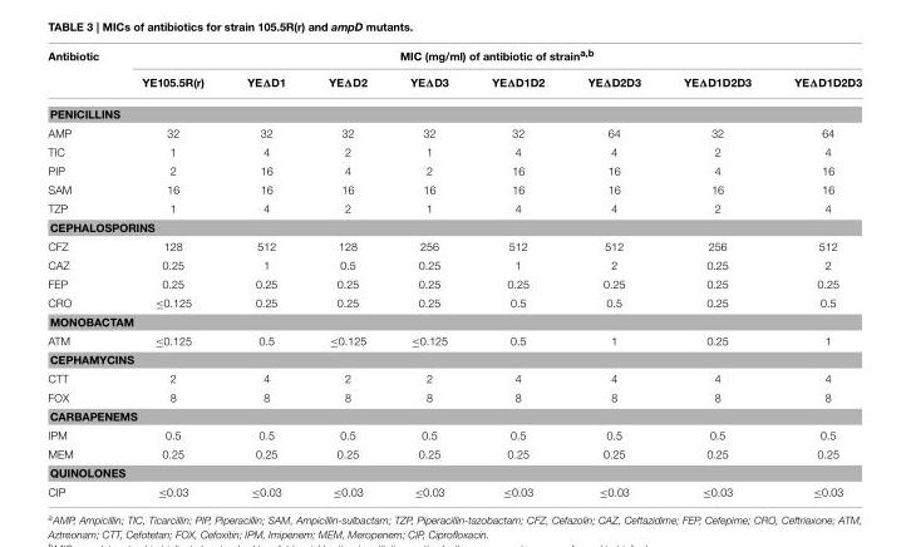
<table><thead><tr><td rowspan="2">Antibiotic</td><td colspan="8">MIC (mg/ml) of antibiotic of strain<sup>a,b</sup></td></tr><tr><td>YE105.5R(r)</td><td>YEΔD1</td><td>YEΔD2</td><td>YEΔD3</td><td>YEΔD1D2</td><td>YEΔD2D3</td><td>YEΔD1D2D3</td><td>YEΔD1D2D3</td></tr></thead><tbody><tr><td colspan="9">PENICILLINS</td></tr><tr><td>AMP</td><td>32</td><td>32</td><td>32</td><td>32</td><td>32</td><td>64</td><td>32</td><td>64</td></tr><tr><td>TIC</td><td>1</td><td>4</td><td>2</td><td>1</td><td>4</td><td>4</td><td>2</td><td>4</td></tr><tr><td>PIP</td><td>2</td><td>16</td><td>4</td><td>2</td><td>16</td><td>16</td><td>4</td><td>16</td></tr><tr><td>SAM</td><td>16</td><td>16</td><td>16</td><td>16</td><td>16</td><td>16</td><td>16</td><td>16</td></tr><tr><td>TZP</td><td>1</td><td>4</td><td>2</td><td>1</td><td>4</td><td>4</td><td>2</td><td>4</td></tr><tr><td colspan="9">CEPHALOSPORINS</td></tr><tr><td>CFZ</td><td>128</td><td>512</td><td>128</td><td>256</td><td>512</td><td>512</td><td>256</td><td>512</td></tr><tr><td>CAZ</td><td>0.25</td><td>1</td><td>0.5</td><td>0.25</td><td>1</td><td>2</td><td>0.25</td><td>2</td></tr><tr><td>FEP</td><td>0.25</td><td>0.25</td><td>0.25</td><td>0.25</td><td>0.25</td><td>0.25</td><td>0.25</td><td>0.25</td></tr><tr><td>CRO</td><td>≤0.125</td><td>0.25</td><td>0.25</td><td>0.25</td><td>0.5</td><td>0.5</td><td>0.25</td><td>0.5</td></tr><tr><td colspan="9">MONOBACTAM</td></tr><tr><td>ATM</td><td>≤0.125</td><td>0.5</td><td>≤0.125</td><td>≤0.125</td><td>0.5</td><td>1</td><td>0.25</td><td>1</td></tr><tr><td colspan="9">CEPHAMYCINS</td></tr><tr><td>CTT</td><td>2</td><td>4</td><td>2</td><td>2</td><td>4</td><td>4</td><td>4</td><td>4</td></tr><tr><td>FOX</td><td>8</td><td>8</td><td>8</td><td>8</td><td>8</td><td>8</td><td>8</td><td>8</td></tr><tr><td colspan="9">CARBAPENEMS</td></tr><tr><td>IPM</td><td>0.5</td><td>0.5</td><td>0.5</td><td>0.5</td><td>0.5</td><td>0.5</td><td>0.5</td><td>0.5</td></tr><tr><td>MEM</td><td>0.25</td><td>0.25</td><td>0.25</td><td>0.25</td><td>0.25</td><td>0.25</td><td>0.25</td><td>0.25</td></tr><tr><td colspan="9">QUINOLONES</td></tr><tr><td>CIP</td><td>≤0.03</td><td>≤0.03</td><td>≤0.03</td><td>≤0.03</td><td>≤0.03</td><td>≤0.03</td><td>≤0.03</td><td>≤0.03</td></tr></tbody></table>